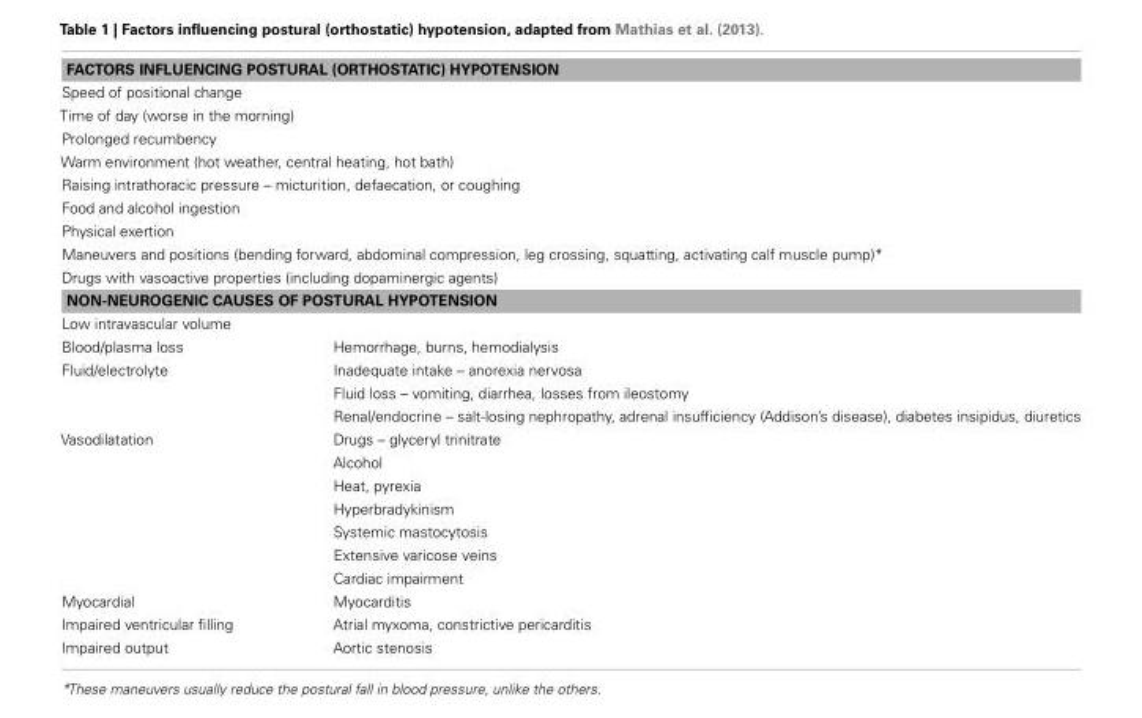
<table><tbody><tr><td colspan="2">FACTORS INFLUENCING POSTURAL (ORTHOSTATIC) HYPOTENSION</td></tr><tr><td colspan="2">Speed of positional change</td></tr><tr><td colspan="2">Time of day (worse in the morning)</td></tr><tr><td colspan="2">Prolonged recumbency</td></tr><tr><td colspan="2">Warm environment (hot weather, central heating, hot bath)</td></tr><tr><td colspan="2">Raising intrathoracic pressure – micturition, defaecation, or coughing</td></tr><tr><td colspan="2">Food and alcohol ingestion</td></tr><tr><td colspan="2">Physical exertion</td></tr><tr><td colspan="2">Maneuvers and positions (bending forward, abdominal compression, leg crossing, squatting, activating calf muscle pump)*</td></tr><tr><td colspan="2">Drugs with vasoactive properties (including dopaminergic agents)</td></tr><tr><td colspan="2">NON-NEUROGENIC CAUSES OF POSTURAL HYPOTENSION</td></tr><tr><td colspan="2">Low intravascular volume</td></tr><tr><td>Blood/plasma loss</td><td>Hemorrhage, burns, hemodialysis</td></tr><tr><td rowspan="3">Fluid/electrolyte</td><td>Inadequate intake – anorexia nervosa</td></tr><tr><td>Fluid loss – vomiting, diarrhea, losses from ileostomy</td></tr><tr><td>Renal/endocrine – salt-losing nephropathy, adrenal insufficiency (Addison’s disease), diabetes insipidus, diuretics</td></tr><tr><td rowspan="7">Vasodilatation</td><td>Drugs – glyceryl trinitrate</td></tr><tr><td>Alcohol</td></tr><tr><td>Heat, pyrexia</td></tr><tr><td>Hyperbradykinism</td></tr><tr><td>Systemic mastocytosis</td></tr><tr><td>Extensive varicose veins</td></tr><tr><td>Cardiac impairment</td></tr><tr><td>Myocardial</td><td>Myocarditis</td></tr><tr><td>Impaired ventricular filling</td><td>Atrial myxoma, constrictive pericarditis</td></tr><tr><td>Impaired output</td><td>Aortic stenosis</td></tr></tbody></table>